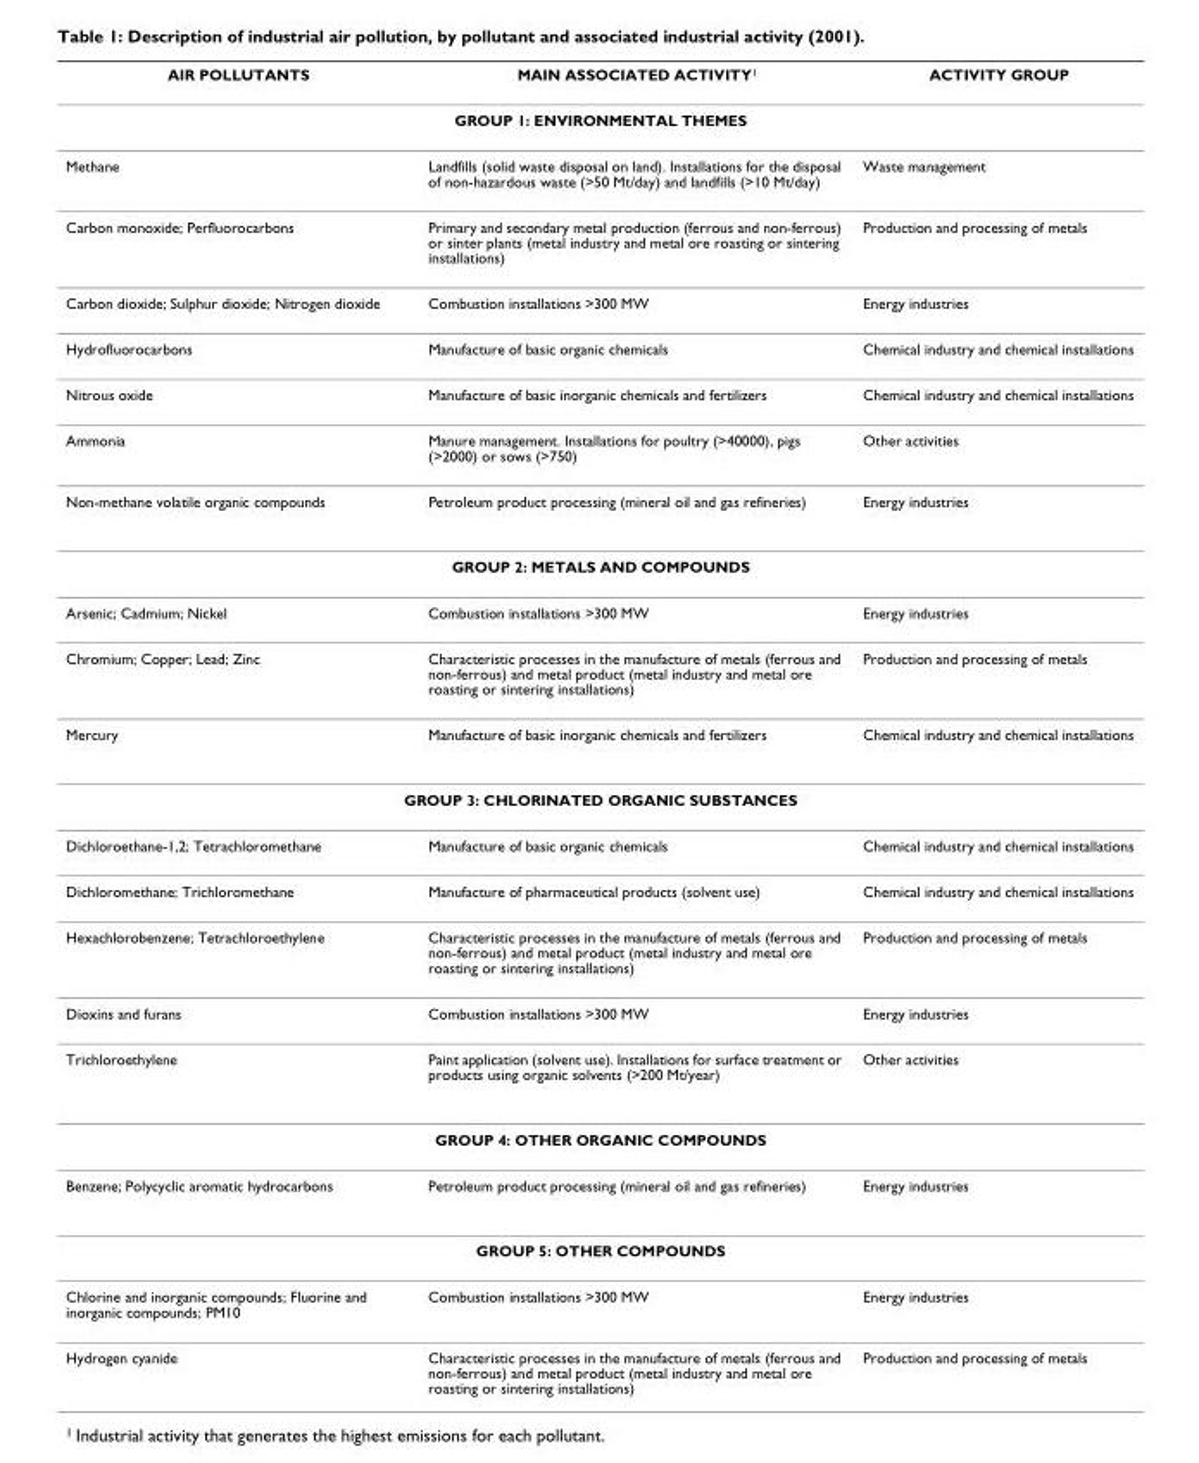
<table><thead><tr><td>AIR POLLUTANTS</td><td>MAIN ASSOCIATED ACTIVITY1</td><td>ACTIVITY GROUP</td></tr></thead><tbody><tr><td colspan="3">GROUP 1: ENVIRONMENTAL THEMES</td></tr><tr><td>Methane</td><td>Landfills (solid waste disposal on land). Installations for the disposal of non-hazardous waste (&gt;50 Mt/day) and landfills (&gt;10 Mt/day)</td><td>Waste management</td></tr><tr><td>Carbon monoxide; Perfluorocarbons</td><td>Primary and secondary metal production (ferrous and non-ferrous) or sinter plants (metal industry and metal ore roasting or sintering installations)</td><td>Production and processing of metals</td></tr><tr><td>Carbon dioxide; Sulphur dioxide; Nitrogen dioxide</td><td>Combustion installations &gt;300 MW</td><td>Energy industries</td></tr><tr><td>Hydrofluorocarbons</td><td>Manufacture of basic organic chemicals</td><td>Chemical industry and chemical installations</td></tr><tr><td>Nitrous oxide</td><td>Manufacture of basic inorganic chemicals and fertilizers</td><td>Chemical industry and chemical installations</td></tr><tr><td>Ammonia</td><td>Manure management. Installations for poultry (&gt;40000), pigs (&gt;2000) or sows (&gt;750)</td><td>Other activities</td></tr><tr><td>Non-methane volatile organic compounds</td><td>Petroleum product processing (mineral oil and gas refineries)</td><td>Energy industries</td></tr><tr><td colspan="3">GROUP 2: METALS AND COMPOUNDS</td></tr><tr><td>Arsenic; Cadmium; Nickel</td><td>Combustion installations &gt;300 MW</td><td>Energy industries</td></tr><tr><td>Chromium; Copper; Lead; Zinc</td><td>Characteristic processes in the manufacture of metals (ferrous and non-ferrous) and metal product (metal industry and metal ore roasting or sintering installations)</td><td>Production and processing of metals</td></tr><tr><td>Mercury</td><td>Manufacture of basic inorganic chemicals and fertilizers</td><td>Chemical industry and chemical installations</td></tr><tr><td colspan="3">GROUP 3: CHLORINATED ORGANIC SUBSTANCES</td></tr><tr><td>Dichloroethane-1,2; Tetrachloromethane</td><td>Manufacture of basic organic chemicals</td><td>Chemical industry and chemical installations</td></tr><tr><td>Dichloromethane; Trichloromethane</td><td>Manufacture of pharmaceutical products (solvent use)</td><td>Chemical industry and chemical installations</td></tr><tr><td>Hexachlorobenzene; Tetrachloroethylene</td><td>Characteristic processes in the manufacture of metals (ferrous and non-ferrous) and metal product (metal industry and metal ore roasting or sintering installations)</td><td>Production and processing of metals</td></tr><tr><td>Dioxins and furans</td><td>Combustion installations &gt;300 MW</td><td>Energy industries</td></tr><tr><td>Trichloroethylene</td><td>Paint application (solvent use). Installations for surface treatment or products using organic solvents (&gt;200 Mt/year)</td><td>Other activities</td></tr><tr><td colspan="3">GROUP 4: OTHER ORGANIC COMPOUNDS</td></tr><tr><td>Benzene; Polycyclic aromatic hydrocarbons</td><td>Petroleum product processing (mineral oil and gas refineries)</td><td>Energy industries</td></tr><tr><td colspan="3">GROUP 5: OTHER COMPOUNDS</td></tr><tr><td>Chlorine and inorganic compounds; Fluorine and inorganic compounds; PM10</td><td>Combustion installations &gt;300 MW</td><td>Energy industries</td></tr><tr><td>Hydrogen cyanide</td><td>Characteristic processes in the manufacture of metals (ferrous and non-ferrous) and metal product (metal industry and metal ore roasting or sintering installations)</td><td>Production and processing of metals</td></tr></tbody></table>